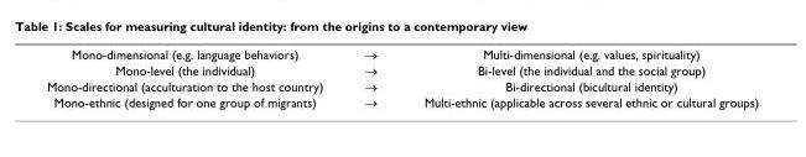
<table><tbody><tr><td>Mono-dimensional (e.g. language behaviors)</td><td>→</td><td>Multi-dimensional (e.g. values, spirituality)</td></tr><tr><td>Mono-level (the individual)</td><td>→</td><td>Bi-level (the individual and the social group)</td></tr><tr><td>Mono-directional (acculturation to the host country)</td><td>→</td><td>Bi-directional (bicultural identity)</td></tr><tr><td>Mono-ethnic (designed for one group of migrants)</td><td>→</td><td>Multi-ethnic (applicable across several ethnic or cultural groups)</td></tr></tbody></table>